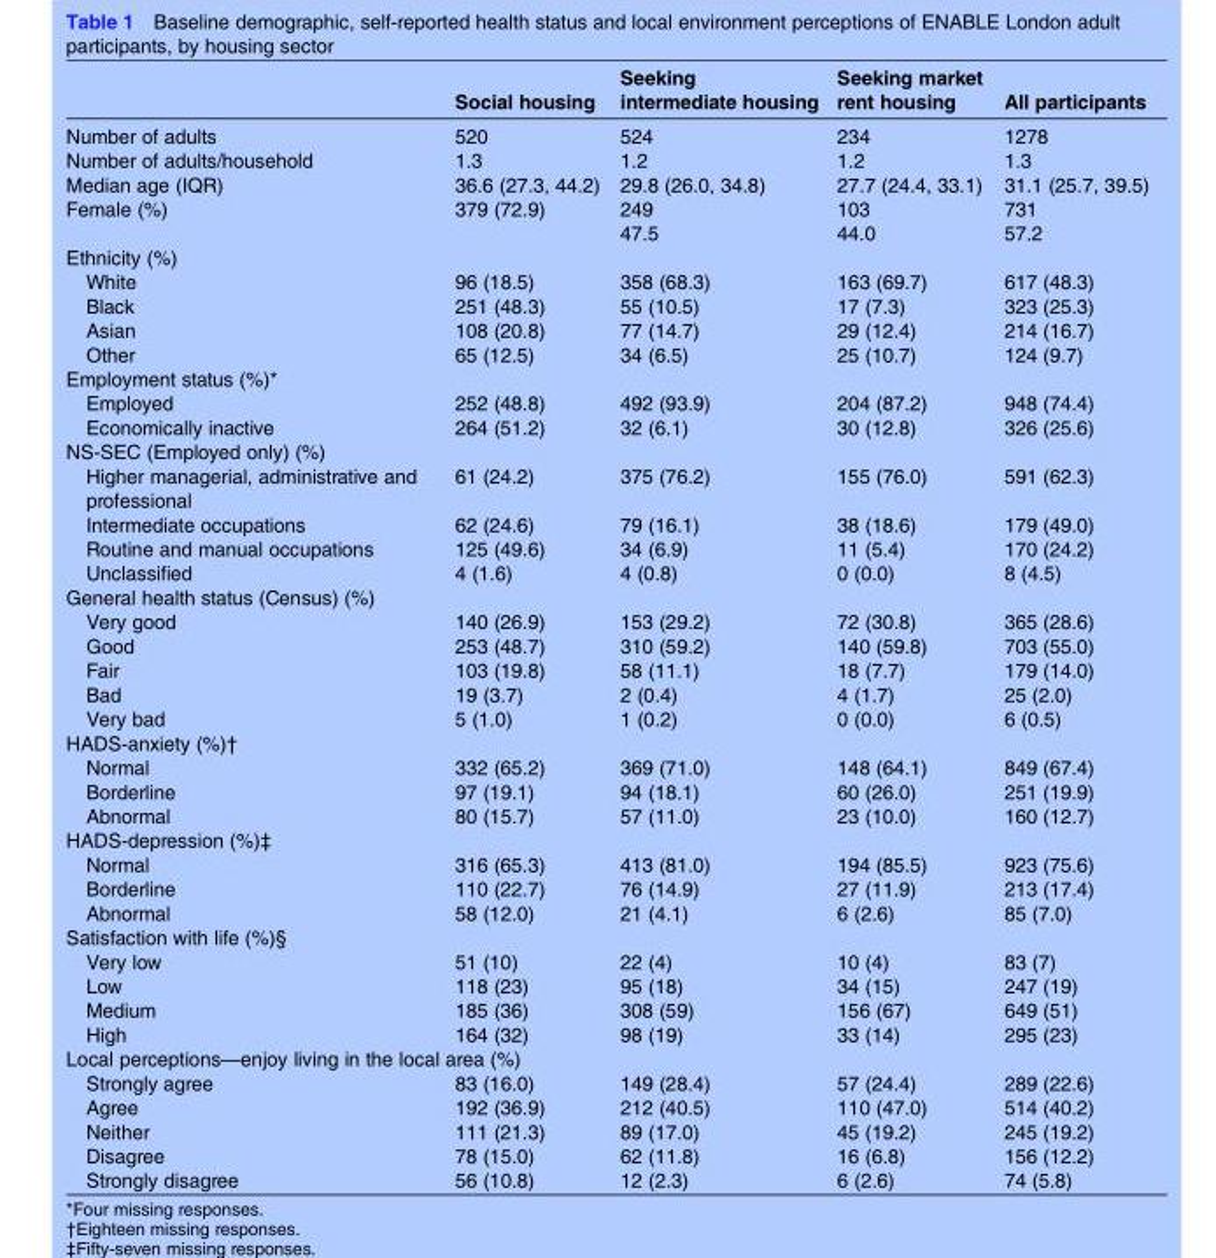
<table><thead><tr><td></td><td>Social housing</td><td>Seeking intermediate housing</td><td>Seeking market rent housing</td><td>All participants</td></tr></thead><tbody><tr><td>Number of adults</td><td>520</td><td>524</td><td>234</td><td>1278</td></tr><tr><td>Number of adults/household</td><td>1.3</td><td>1.2</td><td>1.2</td><td>1.3</td></tr><tr><td>Median age (IQR)</td><td>36.6 (27.3, 44.2)</td><td>29.8 (26.0, 34.8)</td><td>27.7 (24.4, 33.1)</td><td>31.1 (25.7, 39.5)</td></tr><tr><td>Female (%)</td><td>379 (72.9)</td><td>249 47.5</td><td>103 44.0</td><td>731 57.2</td></tr><tr><td colspan="5">Ethnicity (%)</td></tr><tr><td>White</td><td>96 (18.5)</td><td>358 (68.3)</td><td>163 (69.7)</td><td>617 (48.3)</td></tr><tr><td>Black</td><td>251 (48.3)</td><td>55 (10.5)</td><td>17 (7.3)</td><td>323 (25.3)</td></tr><tr><td>Asian</td><td>108 (20.8)</td><td>77 (14.7)</td><td>29 (12.4)</td><td>214 (16.7)</td></tr><tr><td>Other</td><td>65 (12.5)</td><td>34 (6.5)</td><td>25 (10.7)</td><td>124 (9.7)</td></tr><tr><td colspan="5">Employment status (%)*</td></tr><tr><td>Employed</td><td>252 (48.8)</td><td>492 (93.9)</td><td>204 (87.2)</td><td>948 (74.4)</td></tr><tr><td>Economically inactive</td><td>264 (51.2)</td><td>32 (6.1)</td><td>30 (12.8)</td><td>326 (25.6)</td></tr><tr><td colspan="5">NS-SEC (Employed only) (%)</td></tr><tr><td>Higher managerial, administrative and professional</td><td>61 (24.2)</td><td>375 (76.2)</td><td>155 (76.0)</td><td>591 (62.3)</td></tr><tr><td>Intermediate occupations</td><td>62 (24.6)</td><td>79 (16.1)</td><td>38 (18.6)</td><td>179 (49.0)</td></tr><tr><td>Routine and manual occupations</td><td>125 (49.6)</td><td>34 (6.9)</td><td>11 (5.4)</td><td>170 (24.2)</td></tr><tr><td>Unclassified</td><td>4 (1.6)</td><td>4 (0.8)</td><td>0 (0.0)</td><td>8 (4.5)</td></tr><tr><td colspan="5">General health status (Census) (%)</td></tr><tr><td>Very good</td><td>140 (26.9)</td><td>153 (29.2)</td><td>72 (30.8)</td><td>365 (28.6)</td></tr><tr><td>Good</td><td>253 (48.7)</td><td>310 (59.2)</td><td>140 (59.8)</td><td>703 (55.0)</td></tr><tr><td>Fair</td><td>103 (19.8)</td><td>58 (11.1)</td><td>18 (7.7)</td><td>179 (14.0)</td></tr><tr><td>Bad</td><td>19 (3.7)</td><td>2 (0.4)</td><td>4 (1.7)</td><td>25 (2.0)</td></tr><tr><td>Very bad</td><td>5 (1.0)</td><td>1 (0.2)</td><td>0 (0.0)</td><td>6 (0.5)</td></tr><tr><td colspan="5">HADS-anxiety (%)†</td></tr><tr><td>Normal</td><td>332 (65.2)</td><td>369 (71.0)</td><td>148 (64.1)</td><td>849 (67.4)</td></tr><tr><td>Borderline</td><td>97 (19.1)</td><td>94 (18.1)</td><td>60 (26.0)</td><td>251 (19.9)</td></tr><tr><td>Abnormal</td><td>80 (15.7)</td><td>57 (11.0)</td><td>23 (10.0)</td><td>160 (12.7)</td></tr><tr><td colspan="5">HADS-depression (%)‡</td></tr><tr><td>Normal</td><td>316 (65.3)</td><td>413 (81.0)</td><td>194 (85.5)</td><td>923 (75.6)</td></tr><tr><td>Borderline</td><td>110 (22.7)</td><td>76 (14.9)</td><td>27 (11.9)</td><td>213 (17.4)</td></tr><tr><td>Abnormal</td><td>58 (12.0)</td><td>21 (4.1)</td><td>6 (2.6)</td><td>85 (7.0)</td></tr><tr><td colspan="5">Satisfaction with life (%)§</td></tr><tr><td>Very low</td><td>51 (10)</td><td>22 (4)</td><td>10 (4)</td><td>83 (7)</td></tr><tr><td>Low</td><td>118 (23)</td><td>95 (18)</td><td>34 (15)</td><td>247 (19)</td></tr><tr><td>Medium</td><td>185 (36)</td><td>308 (59)</td><td>156 (67)</td><td>649 (51)</td></tr><tr><td>High</td><td>164 (32)</td><td>98 (19)</td><td>33 (14)</td><td>295 (23)</td></tr><tr><td colspan="5">Local perceptions—enjoy living in the local area (%)</td></tr><tr><td>Strongly agree</td><td>83 (16.0)</td><td>149 (28.4)</td><td>57 (24.4)</td><td>289 (22.6)</td></tr><tr><td>Agree</td><td>192 (36.9)</td><td>212 (40.5)</td><td>110 (47.0)</td><td>514 (40.2)</td></tr><tr><td>Neither</td><td>111 (21.3)</td><td>89 (17.0)</td><td>45 (19.2)</td><td>245 (19.2)</td></tr><tr><td>Disagree</td><td>78 (15.0)</td><td>62 (11.8)</td><td>16 (6.8)</td><td>156 (12.2)</td></tr><tr><td>Strongly disagree</td><td>56 (10.8)</td><td>12 (2.3)</td><td>6 (2.6)</td><td>74 (5.8)</td></tr></tbody></table>